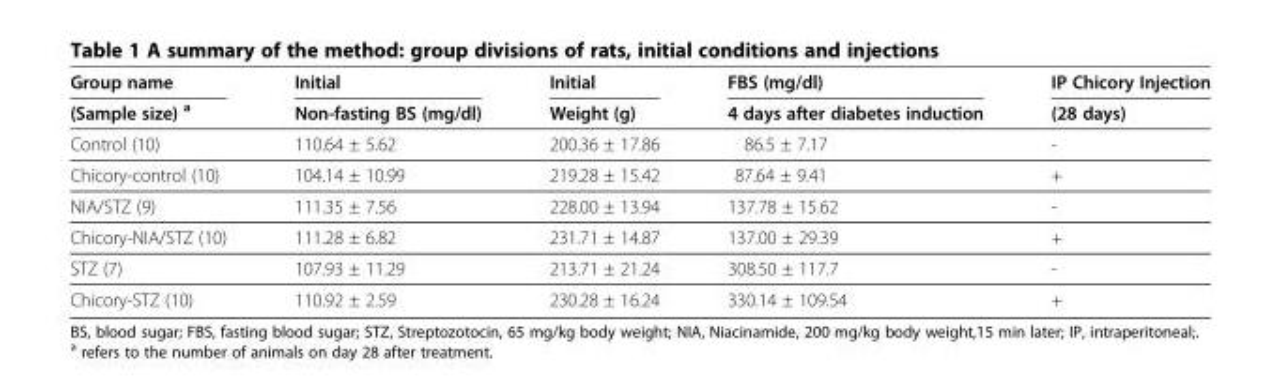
<table><thead><tr><td rowspan="2">Group name (Sample size) <sup>a</sup></td><td rowspan="2">Initial Non-fasting BS (mg/dl)</td><td rowspan="2">Initial Weight (g)</td><td rowspan="2">FBS (mg/dl) 4 days after diabetes induction</td><td rowspan="2">IP Chicory Injection (28 days)</td></tr><tr></tr></thead><tbody><tr><td>Control (10)</td><td>110.64 ± 5.62</td><td>200.36 ± 17.86</td><td>86.5 ± 7.17</td><td>-</td></tr><tr><td>Chicory-control (10)</td><td>104.14 ± 10.99</td><td>219.28 ± 15.42</td><td>87.64 ± 9.41</td><td>+</td></tr><tr><td>NIA/STZ (9)</td><td>111.35 ± 7.56</td><td>228.00 ± 13.94</td><td>137.78 ± 15.62</td><td>-</td></tr><tr><td>Chicory-NIA/STZ (10)</td><td>111.28 ± 6.82</td><td>231.71 ± 14.87</td><td>137.00 ± 29.39</td><td>+</td></tr><tr><td>STZ (7)</td><td>107.93 ± 11.29</td><td>213.71 ± 21.24</td><td>308.50 ± 117.7</td><td>-</td></tr><tr><td>Chicory-STZ (10)</td><td>110.92 ± 2.59</td><td>230.28 ± 16.24</td><td>330.14 ± 109.54</td><td>+</td></tr></tbody></table>